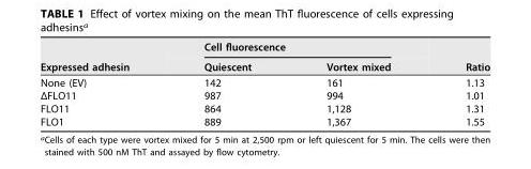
<table><thead><tr><td rowspan="2">Expressed adhesin</td><td colspan="2">Cell fluorescence</td><td rowspan="2">Ratio</td></tr><tr><td>Quiescent</td><td>Vortex mixed</td></tr></thead><tbody><tr><td>None (EV)</td><td>142</td><td>161</td><td>1.13</td></tr><tr><td>ΔFLO11</td><td>987</td><td>994</td><td>1.01</td></tr><tr><td>FLO11</td><td>864</td><td>1,128</td><td>1.31</td></tr><tr><td>FLO1</td><td>889</td><td>1,367</td><td>1.55</td></tr></tbody></table>